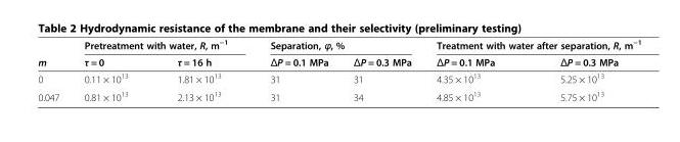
<table><thead><tr><td rowspan="2">m</td><td colspan="2">Pretreatment with water, R, m<sup>−1</sup></td><td colspan="2">Separation, ϕ, %</td><td colspan="2">Treatment with water after separation, R, m<sup>−1</sup></td></tr><tr><td>τ = 0</td><td>τ = 16 h</td><td>ΔP = 0.1 MPa</td><td>ΔP = 0.3 MPa</td><td>ΔP = 0.1 MPa</td><td>ΔP = 0.3 MPa</td></tr></thead><tbody><tr><td>0</td><td>0.11 × 10<sup>13</sup></td><td>1.81 × 10<sup>13</sup></td><td>31</td><td>31</td><td>4.35 × 10<sup>13</sup></td><td>5.25 × 10<sup>13</sup></td></tr><tr><td>0.047</td><td>0.81 × 10<sup>13</sup></td><td>2.13 × 10<sup>13</sup></td><td>31</td><td>34</td><td>4.85 × 10<sup>13</sup></td><td>5.75 × 10<sup>13</sup></td></tr></tbody></table>